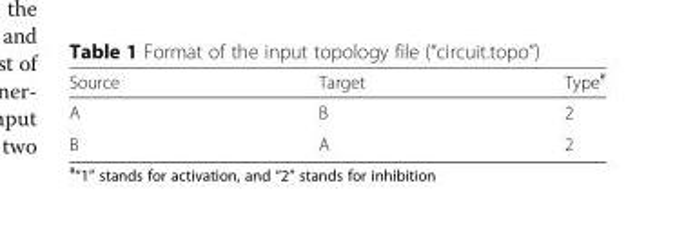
<table><thead><tr><td>Source</td><td>Target</td><td>Type<sup>#</sup></td></tr></thead><tbody><tr><td>A</td><td>B</td><td>2</td></tr><tr><td>B</td><td>A</td><td>2</td></tr></tbody></table>